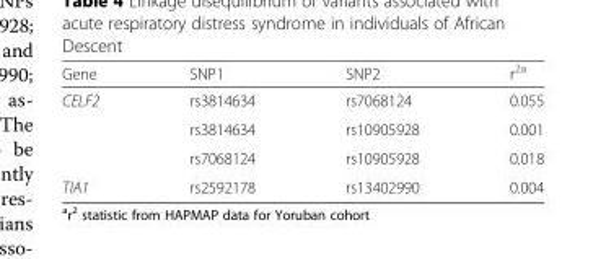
<table><thead><tr><td>Gene</td><td>SNP1</td><td>SNP2</td><td>r<sup>2a</sup></td></tr></thead><tbody><tr><td rowspan="3">CELF2</td><td>rs3814634</td><td>rs7068124</td><td>0.055</td></tr><tr><td>rs3814634</td><td>rs10905928</td><td>0.001</td></tr><tr><td>rs7068124</td><td>rs10905928</td><td>0.018</td></tr><tr><td>TIA1</td><td>rs2592178</td><td>rs13402990</td><td>0.004</td></tr></tbody></table>